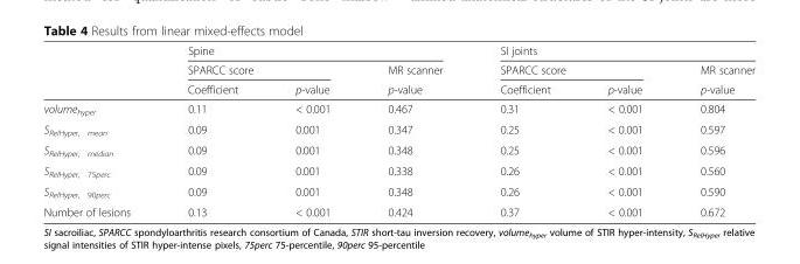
<table><thead><tr><td rowspan="3"></td><td colspan="3">Spine</td><td colspan="3">SI joints</td></tr><tr><td colspan="2">SPARCC score</td><td rowspan="2">MR scanner p-value</td><td colspan="2">SPARCC score</td><td rowspan="2">MR scanner p-value</td></tr><tr><td>Coefficient</td><td>p-value</td><td>Coefficient</td><td>p-value</td></tr></thead><tbody><tr><td>volume<sub>hyper</sub></td><td>0.11</td><td>&lt; 0.001</td><td>0.467</td><td>0.31</td><td>&lt; 0.001</td><td>0.804</td></tr><tr><td>S<sub>RelHyper, mean</sub></td><td>0.09</td><td>0.001</td><td>0.347</td><td>0.25</td><td>&lt; 0.001</td><td>0.597</td></tr><tr><td>S<sub>RelHyper, median</sub></td><td>0.09</td><td>0.001</td><td>0.348</td><td>0.25</td><td>&lt; 0.001</td><td>0.596</td></tr><tr><td>S<sub>RelHyper, 75perc</sub></td><td>0.09</td><td>0.001</td><td>0.338</td><td>0.26</td><td>&lt; 0.001</td><td>0.560</td></tr><tr><td>S<sub>RelHyper, 90perc</sub></td><td>0.09</td><td>0.001</td><td>0.348</td><td>0.26</td><td>&lt; 0.001</td><td>0.590</td></tr><tr><td>Number of lesions</td><td>0.13</td><td>&lt; 0.001</td><td>0.424</td><td>0.37</td><td>&lt; 0.001</td><td>0.672</td></tr></tbody></table>